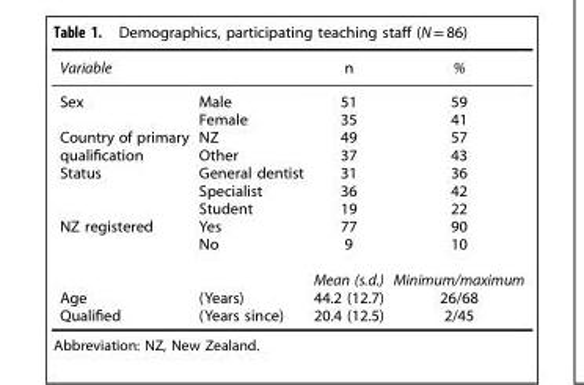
<table><thead><tr><td>Variable</td><td></td><td>n</td><td>%</td></tr></thead><tbody><tr><td rowspan="2">Sex</td><td>Male</td><td>51</td><td>59</td></tr><tr><td>Female</td><td>35</td><td>41</td></tr><tr><td>Country of primary qualification</td><td>NZ Other</td><td>49 37</td><td>57 43</td></tr><tr><td rowspan="3">Status</td><td>General dentist</td><td>31</td><td>36</td></tr><tr><td>Specialist</td><td>36</td><td>42</td></tr><tr><td>Student</td><td>19</td><td>22</td></tr><tr><td rowspan="3">NZ registered</td><td>Yes</td><td>77</td><td>90</td></tr><tr><td>No</td><td>9</td><td>10</td></tr><tr><td></td><td>Mean (s.d.)</td><td>Minimum/maximum</td></tr><tr><td>Age</td><td>(Years)</td><td>44.2 (12.7)</td><td>26/68</td></tr><tr><td>Qualified</td><td>(Years since)</td><td>20.4 (12.5)</td><td>2/45</td></tr></tbody></table>